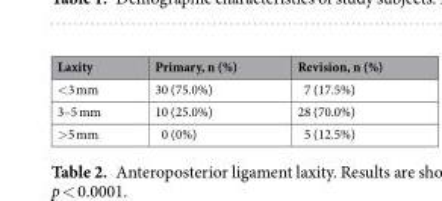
<table><thead><tr><td>Laxity</td><td>Primary, n (%)</td><td>Revision, n (%)</td></tr></thead><tbody><tr><td>&lt;3 mm</td><td>30 (75.0%)</td><td>7 (17.5%)</td></tr><tr><td>3–5 mm</td><td>10 (25.0%)</td><td>28 (70.0%)</td></tr><tr><td>&gt;5 mm</td><td>0 (0%)</td><td>5 (12.5%)</td></tr></tbody></table>